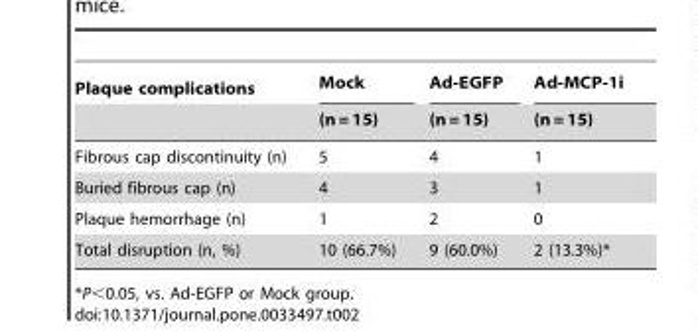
<table><thead><tr><td rowspan="2">Plaque complications</td><td rowspan="2">Mock (n = 15)</td><td rowspan="2">Ad-EGFP (n = 15)</td><td rowspan="2">Ad-MCP-1i (n = 15)</td></tr><tr></tr></thead><tbody><tr><td>Fibrous cap discontinuity (n)</td><td>5</td><td>4</td><td>1</td></tr><tr><td>Buried fibrous cap (n)</td><td>4</td><td>3</td><td>1</td></tr><tr><td>Plaque hemorrhage (n)</td><td>1</td><td>2</td><td>0</td></tr><tr><td>Total disruption (n, %)</td><td>10 (66.7%)</td><td>9 (60.0%)</td><td>2 (13.3%)*</td></tr></tbody></table>